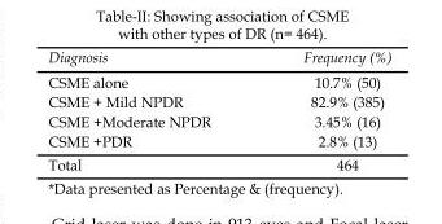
<table><thead><tr><td>Diagnosis</td><td>Frequency (%)</td></tr></thead><tbody><tr><td>CSME alone</td><td>10.7% (50)</td></tr><tr><td>CSME + Mild NPDR</td><td>82.9% (385)</td></tr><tr><td>CSME +Moderate NPDR</td><td>3.45% (16)</td></tr><tr><td>CSME +PDR</td><td>2.8% (13)</td></tr><tr><td>Total</td><td>464</td></tr></tbody></table>